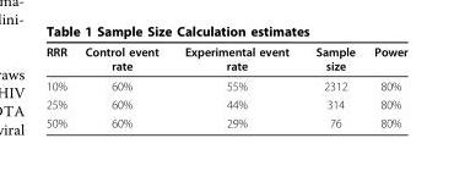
<table><thead><tr><td>RRR</td><td>Control event rate</td><td>Experimental event rate</td><td>Sample size</td><td>Power</td></tr></thead><tbody><tr><td>10%</td><td>60%</td><td>55%</td><td>2312</td><td>80%</td></tr><tr><td>25%</td><td>60%</td><td>44%</td><td>314</td><td>80%</td></tr><tr><td>50%</td><td>60%</td><td>29%</td><td>76</td><td>80%</td></tr></tbody></table>